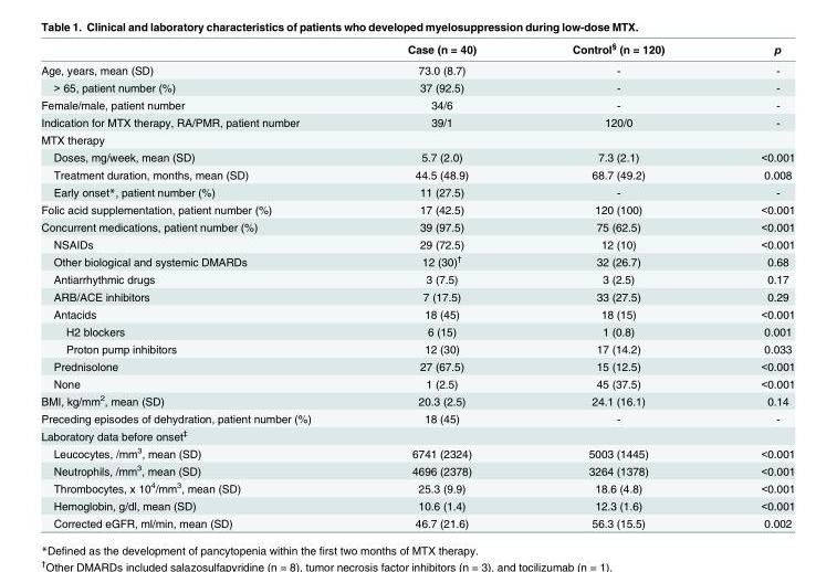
<table><thead><tr><td></td><td>Case (n = 40)</td><td>Control<sup>§</sup> (n = 120)</td><td>p</td></tr></thead><tbody><tr><td>Age, years, mean (SD)</td><td>73.0 (8.7)</td><td>-</td><td>-</td></tr><tr><td>&gt; 65, patient number (%)</td><td>37 (92.5)</td><td>-</td><td>-</td></tr><tr><td>Female/male, patient number</td><td>34/6</td><td>-</td><td>-</td></tr><tr><td>Indication for MTX therapy, RA/PMR, patient number</td><td>39/1</td><td>120/0</td><td>-</td></tr><tr><td colspan="4">MTX therapy</td></tr><tr><td>Doses, mg/week, mean (SD)</td><td>5.7 (2.0)</td><td>7.3 (2.1)</td><td>&lt;0.001</td></tr><tr><td>Treatment duration, months, mean (SD)</td><td>44.5 (48.9)</td><td>68.7 (49.2)</td><td>0.008</td></tr><tr><td>Early onset*, patient number (%)</td><td>11 (27.5)</td><td>-</td><td>-</td></tr><tr><td>Folic acid supplementation, patient number (%)</td><td>17 (42.5)</td><td>120 (100)</td><td>&lt;0.001</td></tr><tr><td>Concurrent medications, patient number (%)</td><td>39 (97.5)</td><td>75 (62.5)</td><td>&lt;0.001</td></tr><tr><td>NSAIDs</td><td>29 (72.5)</td><td>12 (10)</td><td>&lt;0.001</td></tr><tr><td>Other biological and systemic DMARDs</td><td>12 (30)<sup>†</sup></td><td>32 (26.7)</td><td>0.68</td></tr><tr><td>Antiarrhythmic drugs</td><td>3 (7.5)</td><td>3 (2.5)</td><td>0.17</td></tr><tr><td>ARB/ACE inhibitors</td><td>7 (17.5)</td><td>33 (27.5)</td><td>0.29</td></tr><tr><td>Antacids</td><td>18 (45)</td><td>18 (15)</td><td>&lt;0.001</td></tr><tr><td>H2 blockers</td><td>6 (15)</td><td>1 (0.8)</td><td>0.001</td></tr><tr><td>Proton pump inhibitors</td><td>12 (30)</td><td>17 (14.2)</td><td>0.033</td></tr><tr><td>Prednisolone</td><td>27 (67.5)</td><td>15 (12.5)</td><td>&lt;0.001</td></tr><tr><td>None</td><td>1 (2.5)</td><td>45 (37.5)</td><td>&lt;0.001</td></tr><tr><td>BMI, kg/mm<sup>2</sup>, mean (SD)</td><td>20.3 (2.5)</td><td>24.1 (16.1)</td><td>0.14</td></tr><tr><td>Preceding episodes of dehydration, patient number (%)</td><td>18 (45)</td><td>-</td><td>-</td></tr><tr><td colspan="4">Laboratory data before onset<sup>‡</sup></td></tr><tr><td>Leucocytes, /mm<sup>3</sup>, mean (SD)</td><td>6741 (2324)</td><td>5003 (1445)</td><td>&lt;0.001</td></tr><tr><td>Neutrophils, /mm<sup>3</sup>, mean (SD)</td><td>4696 (2378)</td><td>3264 (1378)</td><td>&lt;0.001</td></tr><tr><td>Thrombocytes, x 10<sup>4</sup>/mm<sup>3</sup>, mean (SD)</td><td>25.3 (9.9)</td><td>18.6 (4.8)</td><td>&lt;0.001</td></tr><tr><td>Hemoglobin, g/dl, mean (SD)</td><td>10.6 (1.4)</td><td>12.3 (1.6)</td><td>&lt;0.001</td></tr><tr><td>Corrected eGFR, ml/min, mean (SD)</td><td>46.7 (21.6)</td><td>56.3 (15.5)</td><td>0.002</td></tr></tbody></table>